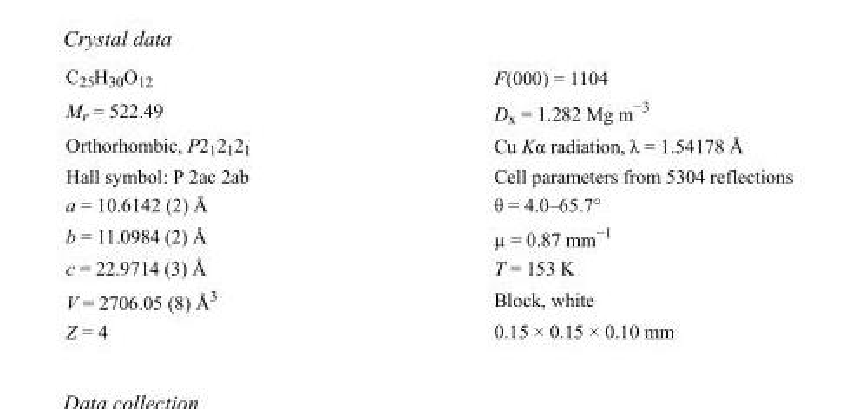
<table><tbody><tr><td>C<sub>25</sub>H<sub>30</sub>O<sub>12</sub></td><td>F(000) = 1104</td></tr><tr><td>M<sub>r</sub> = 522.49</td><td>D<sub>x</sub> = 1.282 Mg m<sup>−3</sup></td></tr><tr><td>Orthorhombic, P2<sub>1</sub>2<sub>1</sub>2<sub>1</sub></td><td>Cu Kα radiation, λ = 1.54178 Å</td></tr><tr><td>Hall symbol: P 2ac 2ab</td><td>Cell parameters from 5304 reflections</td></tr><tr><td>a = 10.6142 (2) Å</td><td>θ = 4.0–65.7°</td></tr><tr><td>b = 11.0984 (2) Å</td><td>µ = 0.87 mm<sup>−1</sup></td></tr><tr><td>c = 22.9714 (3) Å</td><td>T = 153 K</td></tr><tr><td>V = 2706.05 (8) Å<sup>3</sup></td><td>Block, white</td></tr><tr><td>Z = 4</td><td>0.15 × 0.15 × 0.10 mm</td></tr></tbody></table>